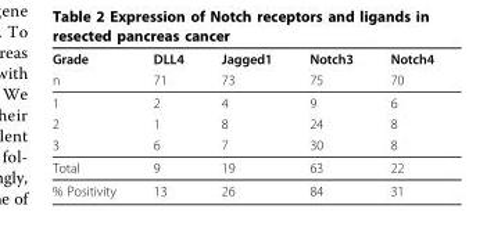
<table><thead><tr><td rowspan="2">Grade n</td><td rowspan="2">DLL4 71</td><td rowspan="2">Jagged1 73</td><td rowspan="2">Notch3 75</td><td rowspan="2">Notch4 70</td></tr><tr></tr></thead><tbody><tr><td>1</td><td>2</td><td>4</td><td>9</td><td>6</td></tr><tr><td>2</td><td>1</td><td>8</td><td>24</td><td>8</td></tr><tr><td>3</td><td>6</td><td>7</td><td>30</td><td>8</td></tr><tr><td>Total</td><td>9</td><td>19</td><td>63</td><td>22</td></tr><tr><td>% Positivity</td><td>13</td><td>26</td><td>84</td><td>31</td></tr></tbody></table>